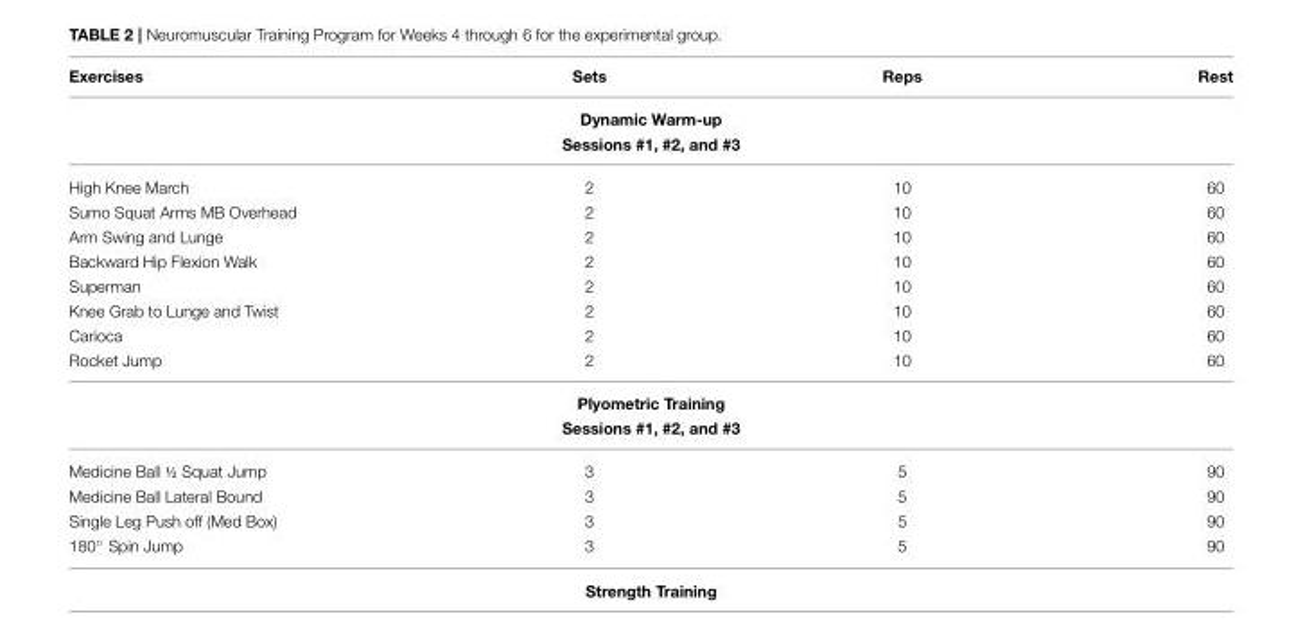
<table><thead><tr><td>Exercises</td><td>Sets</td><td>Reps</td><td>Rest</td></tr></thead><tbody><tr><td></td><td>Dynamic Warm-up</td><td></td><td></td></tr><tr><td></td><td>Sessions #1, #2, and #3</td><td></td><td></td></tr><tr><td>High Knee March</td><td>2</td><td>10</td><td>60</td></tr><tr><td>Sumo Squat Arms MB Overhead</td><td>2</td><td>10</td><td>60</td></tr><tr><td>Arm Swing and Lunge</td><td>2</td><td>10</td><td>60</td></tr><tr><td>Backward Hip Flexion Walk</td><td>2</td><td>10</td><td>60</td></tr><tr><td>Superman</td><td>2</td><td>10</td><td>60</td></tr><tr><td>Knee Grab to Lunge and Twist</td><td>2</td><td>10</td><td>60</td></tr><tr><td>Carioca</td><td>2</td><td>10</td><td>60</td></tr><tr><td rowspan="3">Rocket Jump</td><td>2</td><td>10</td><td>60</td></tr><tr><td>Plyometric Training</td><td></td><td></td></tr><tr><td>Sessions #1, #2, and #3</td><td></td><td></td></tr><tr><td>Medicine Ball ½ Squat Jump</td><td>3</td><td>5</td><td>90</td></tr><tr><td>Medicine Ball Lateral Bound</td><td>3</td><td>5</td><td>90</td></tr><tr><td>Single Leg Push off (Med Box)</td><td>3</td><td>5</td><td>90</td></tr><tr><td>180◦ Spin Jump</td><td>3</td><td>5</td><td>90</td></tr></tbody></table>